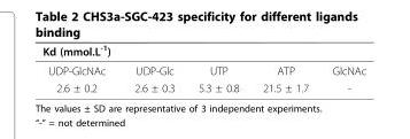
<table><thead><tr><td>Kd (mmol.L<sup>-1</sup>)</td><td></td><td></td><td></td><td></td></tr></thead><tbody><tr><td>UDP-GlcNAc</td><td>UDP-Glc</td><td>UTP</td><td>ATP</td><td>GlcNAc</td></tr><tr><td>2.6 ± 0.2</td><td>2.6 ± 0.3</td><td>5.3 ± 0.8</td><td>21.5 ± 1.7</td><td>-</td></tr></tbody></table>